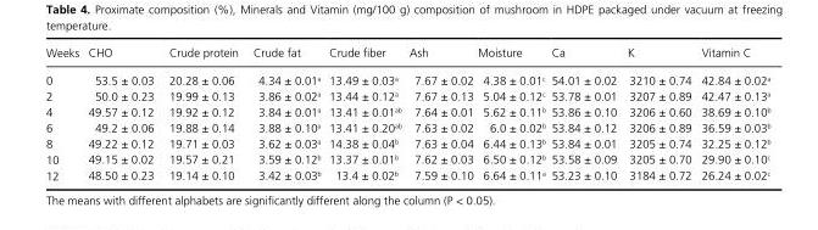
<table><thead><tr><td>Weeks</td><td>CHO</td><td>Crude protein</td><td>Crude fat</td><td>Crude fi ber</td><td>Ash</td><td>Moisture</td><td>Ca</td><td>K</td><td>Vitamin C</td></tr></thead><tbody><tr><td>0</td><td>53.5 ± 0.03</td><td>20.28 ± 0.06</td><td>4.34 ± 0.01 <sup>a</sup></td><td>13.49 ± 0.03 <sup>a</sup></td><td>7.67 ± 0.02</td><td>4.38 ± 0.01 <sup>c</sup></td><td>54.01 ± 0.02</td><td>3210 ± 0.74</td><td>42.84 ± 0.02 <sup>a</sup></td></tr><tr><td>2</td><td>50.0 ± 0.23</td><td>19.99 ± 0.13</td><td>3.86 ± 0.02 <sup>a</sup></td><td>13.44 ± 0.12 <sup>a</sup></td><td>7.67 ± 0.13</td><td>5.04 ± 0.12 <sup>c</sup></td><td>53.78 ± 0.01</td><td>3207 ± 0.89</td><td>42.47 ± 0.13 <sup>a</sup></td></tr><tr><td>4</td><td>49.57 ± 0.12</td><td>19.92 ± 0.12</td><td>3.84 ± 0.01 <sup>a</sup></td><td>13.41 ± 0.01 <sup>ab</sup></td><td>7.64 ± 0.01</td><td>5.62 ± 0.11 <sup>b</sup></td><td>53.86 ± 0.10</td><td>3206 ± 0.60</td><td>38.69 ± 0.10 <sup>b</sup></td></tr><tr><td>6</td><td>49.2 ± 0.06</td><td>19.88 ± 0.14</td><td>3.88 ± 0.10 <sup>a</sup></td><td>13.41 ± 0.20 <sup>ab</sup></td><td>7.63 ± 0.02</td><td>6.0 ± 0.02 <sup>b</sup></td><td>53.84 ± 0.12</td><td>3206 ± 0.89</td><td>36.59 ± 0.03 <sup>b</sup></td></tr><tr><td>8</td><td>49.22 ± 0.12</td><td>19.71 ± 0.03</td><td>3.62 ± 0.03 <sup>a</sup></td><td>14.38 ± 0.04 <sup>b</sup></td><td>7.63 ± 0.04</td><td>6.44 ± 0.13 <sup>b</sup></td><td>53.84 ± 0.01</td><td>3205 ± 0.74</td><td>32.25 ± 0.12 <sup>b</sup></td></tr><tr><td>10</td><td>49.15 ± 0.02</td><td>19.57 ± 0.21</td><td>3.59 ± 0.12 <sup>b</sup></td><td>13.37 ± 0.01 <sup>b</sup></td><td>7.62 ± 0.03</td><td>6.50 ± 0.12 <sup>b</sup></td><td>53.58 ± 0.09</td><td>3205 ± 0.70</td><td>29.90 ± 0.10 <sup>c</sup></td></tr><tr><td>12</td><td>48.50 ± 0.23</td><td>19.14 ± 0.10</td><td>3.42 ± 0.03 <sup>b</sup></td><td>13.4 ± 0.02 <sup>b</sup></td><td>7.59 ± 0.10</td><td>6.64 ± 0.11 <sup>a</sup></td><td>53.23 ± 0.10</td><td>3184 ± 0.72</td><td>26.24 ± 0.02 <sup>c</sup></td></tr></tbody></table>